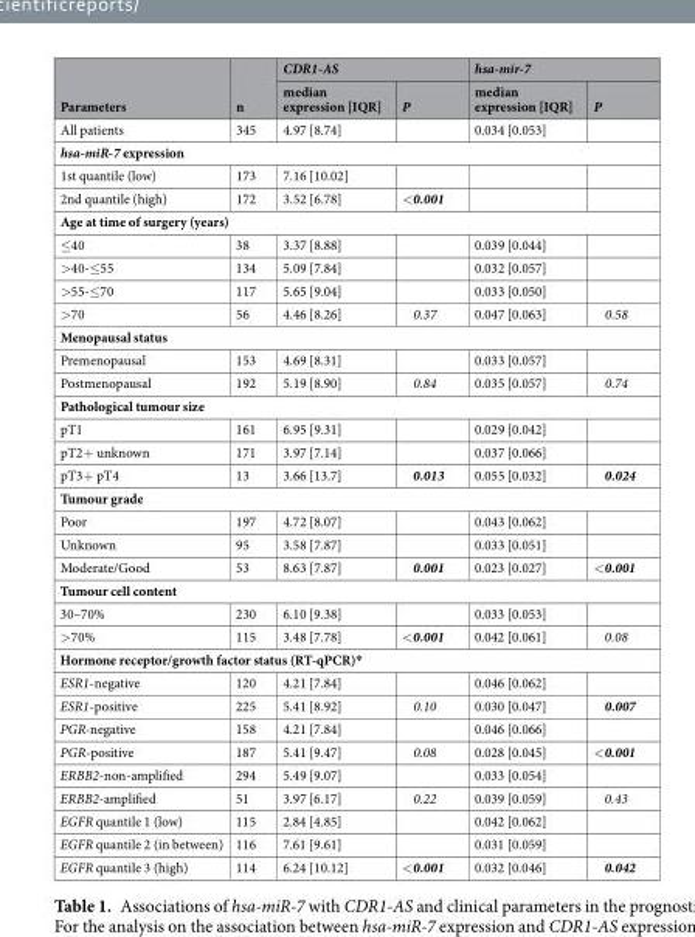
<table><thead><tr><td rowspan="2">Parameters</td><td rowspan="2">n</td><td colspan="2">CDR1-AS</td><td colspan="2">hsa-mir-7</td></tr><tr><td>median expression [IQR]</td><td>P</td><td>median expression [IQR]</td><td>P</td></tr></thead><tbody><tr><td>All patients</td><td>345</td><td>4.97 [8.74]</td><td></td><td>0.034 [0.053]</td><td></td></tr><tr><td colspan="6">hsa-miR-7 expression</td></tr><tr><td>1st quantile (low)</td><td>173</td><td>7.16 [10.02]</td><td></td><td></td><td></td></tr><tr><td>2nd quantile (high)</td><td>172</td><td>3.52 [6.78]</td><td>&lt;0.001</td><td></td><td></td></tr><tr><td colspan="6">Age at time of surgery (years)</td></tr><tr><td>≤40</td><td>38</td><td>3.37 [8.88]</td><td></td><td>0.039 [0.044]</td><td></td></tr><tr><td>&gt;40-≤55</td><td>134</td><td>5.09 [7.84]</td><td></td><td>0.032 [0.057]</td><td></td></tr><tr><td>&gt;55-≤70</td><td>117</td><td>5.65 [9.04]</td><td></td><td>0.033 [0.050]</td><td></td></tr><tr><td>&gt;70</td><td>56</td><td>4.46 [8.26]</td><td>0.37</td><td>0.047 [0.063]</td><td>0.58</td></tr><tr><td colspan="6">Menopausal status</td></tr><tr><td>Premenopausal</td><td>153</td><td>4.69 [8.31]</td><td></td><td>0.033 [0.057]</td><td></td></tr><tr><td>Postmenopausal</td><td>192</td><td>5.19 [8.90]</td><td>0.84</td><td>0.035 [0.057]</td><td>0.74</td></tr><tr><td colspan="6">Pathological tumour size</td></tr><tr><td>pT1</td><td>161</td><td>6.95 [9.31]</td><td></td><td>0.029 [0.042]</td><td></td></tr><tr><td>pT2+ unknown</td><td>171</td><td>3.97 [7.14]</td><td></td><td>0.037 [0.066]</td><td></td></tr><tr><td>pT3+ pT4</td><td>13</td><td>3.66 [13.7]</td><td>0.013</td><td>0.055 [0.032]</td><td>0.024</td></tr><tr><td colspan="6">Tumour grade</td></tr><tr><td>Poor</td><td>197</td><td>4.72 [8.07]</td><td></td><td>0.043 [0.062]</td><td></td></tr><tr><td>Unknown</td><td>95</td><td>3.58 [7.87]</td><td></td><td>0.033 [0.051]</td><td></td></tr><tr><td>Moderate/Good</td><td>53</td><td>8.63 [7.87]</td><td>0.001</td><td>0.023 [0.027]</td><td>&lt;0.001</td></tr><tr><td colspan="6">Tumour cell content</td></tr><tr><td>30–70%</td><td>230</td><td>6.10 [9.38]</td><td></td><td>0.033 [0.053]</td><td></td></tr><tr><td>&gt;70%</td><td>115</td><td>3.48 [7.78]</td><td>&lt;0.001</td><td>0.042 [0.061]</td><td>0.08</td></tr><tr><td colspan="6">Hormone receptor/growth factor status (RT-qPCR)*</td></tr><tr><td>ESR1-negative</td><td>120</td><td>4.21 [7.84]</td><td></td><td>0.046 [0.062]</td><td></td></tr><tr><td>ESR1-positive</td><td>225</td><td>5.41 [8.92]</td><td>0.10</td><td>0.030 [0.047]</td><td>0.007</td></tr><tr><td>PGR-negative</td><td>158</td><td>4.21 [7.84]</td><td></td><td>0.046 [0.066]</td><td></td></tr><tr><td>PGR-positive</td><td>187</td><td>5.41 [9.47]</td><td>0.08</td><td>0.028 [0.045]</td><td>&lt;0.001</td></tr><tr><td>ERBB2-non-amplified</td><td>294</td><td>5.49 [9.07]</td><td></td><td>0.033 [0.054]</td><td></td></tr><tr><td>ERBB2-amplified</td><td>51</td><td>3.97 [6.17]</td><td>0.22</td><td>0.039 [0.059]</td><td>0.43</td></tr><tr><td>EGFR quantile 1 (low)</td><td>115</td><td>2.84 [4.85]</td><td></td><td>0.042 [0.062]</td><td></td></tr><tr><td>EGFR quantile 2 (in between)</td><td>116</td><td>7.61 [9.61]</td><td></td><td>0.031 [0.059]</td><td></td></tr><tr><td>EGFR quantile 3 (high)</td><td>114</td><td>6.24 [10.12]</td><td>&lt;0.001</td><td>0.032 [0.046]</td><td>0.042</td></tr></tbody></table>